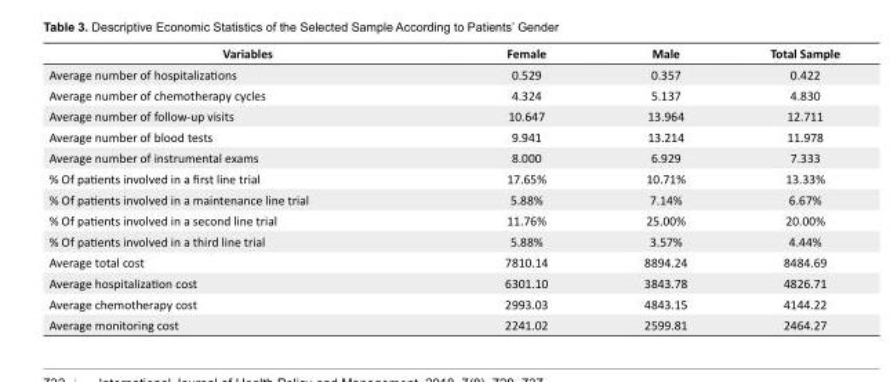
<table><tbody><tr><td>Variables</td><td>Female</td><td>Male</td><td>Total Sample</td></tr><tr><td>Average number of hospitalizations</td><td>0.529</td><td>0.357</td><td>0.422</td></tr><tr><td>Average number of chemotherapy cycles</td><td>4.324</td><td>5.137</td><td>4.830</td></tr><tr><td>Average number of follow-up visits</td><td>10.647</td><td>13.964</td><td>12.711</td></tr><tr><td>Average number of blood tests</td><td>9.941</td><td>13.214</td><td>11.978</td></tr><tr><td>Average number of instrumental exams</td><td>8.000</td><td>6.929</td><td>7.333</td></tr><tr><td>% Of patients involved in a first line trial</td><td>17.65%</td><td>10.71%</td><td>13.33%</td></tr><tr><td>% Of patients involved in a maintenance line trial</td><td>5.88%</td><td>7.14%</td><td>6.67%</td></tr><tr><td>% Of patients involved in a second line trial</td><td>11.76%</td><td>25.00%</td><td>20.00%</td></tr><tr><td>% Of patients involved in a third line trial</td><td>5.88%</td><td>3.57%</td><td>4.44%</td></tr><tr><td>Average total cost</td><td>7810.14</td><td>8894.24</td><td>8484.69</td></tr><tr><td>Average hospitalization cost</td><td>6301.10</td><td>3843.78</td><td>4826.71</td></tr><tr><td>Average chemotherapy cost</td><td>2993.03</td><td>4843.15</td><td>4144.22</td></tr><tr><td>Average monitoring cost</td><td>2241.02</td><td>2599.81</td><td>2464.27</td></tr></tbody></table>